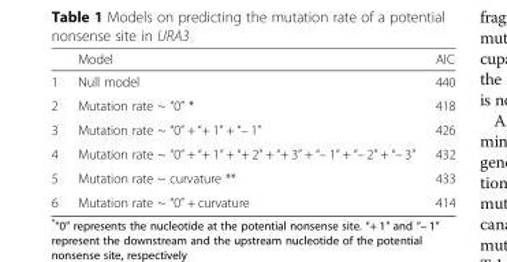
<table><thead><tr><td></td><td>Model</td><td>AIC</td></tr></thead><tbody><tr><td>1</td><td>Null model</td><td>440</td></tr><tr><td>2</td><td>Mutation rate ~ “0” *</td><td>418</td></tr><tr><td>3</td><td>Mutation rate ~ “0” + “+ 1” + “– 1”</td><td>426</td></tr><tr><td>4</td><td>Mutation rate ~ “0” + “+ 1” + “+ 2” + “+ 3” + “– 1” + “– 2” + “– 3”</td><td>432</td></tr><tr><td>5</td><td>Mutation rate ~ curvature **</td><td>433</td></tr><tr><td>6</td><td>Mutation rate ~ “0” + curvature</td><td>414</td></tr></tbody></table>